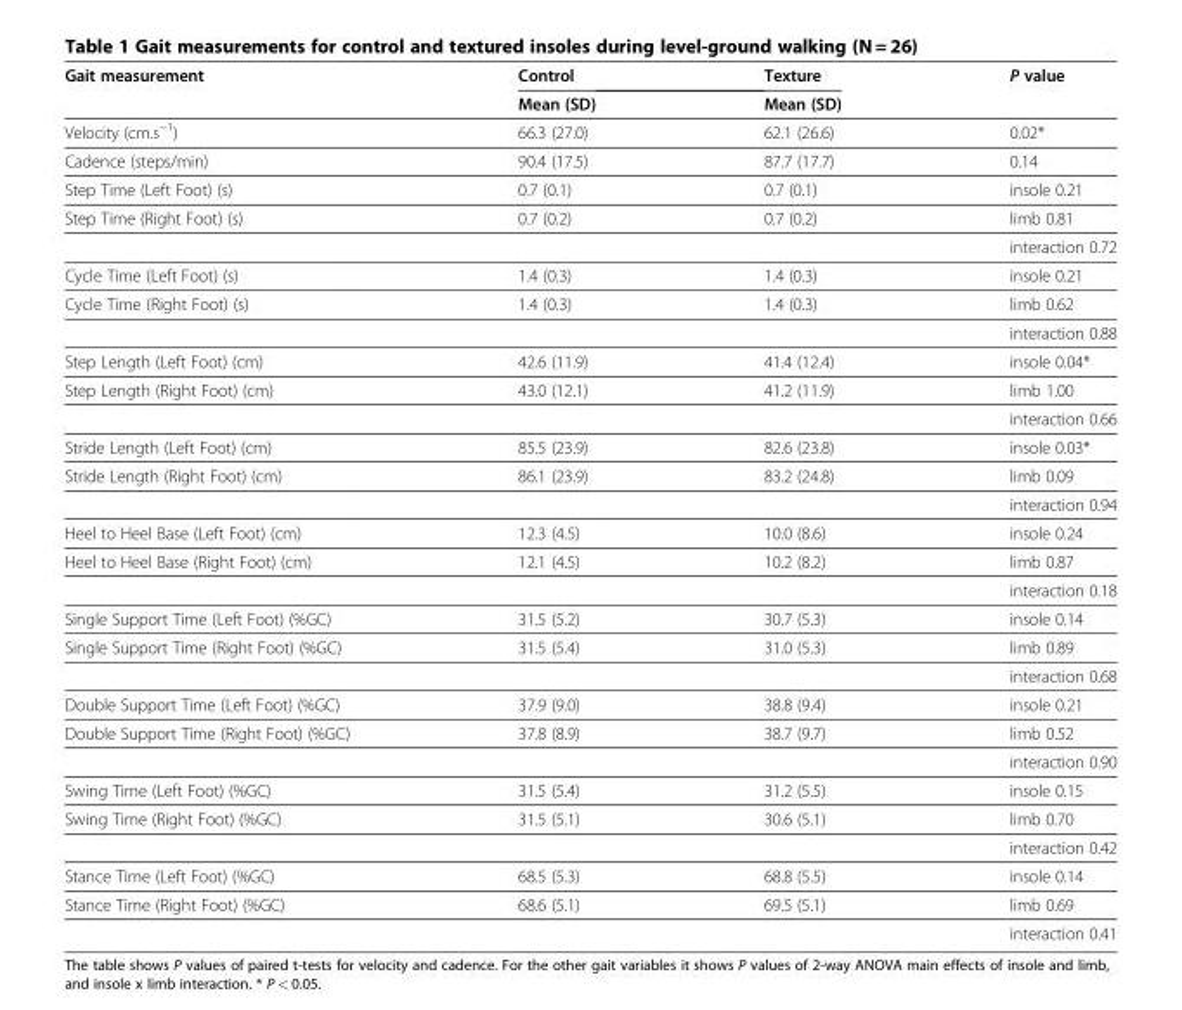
<table><thead><tr><td rowspan="2">Gait measurement</td><td rowspan="2">Control Mean (SD)</td><td rowspan="2">Texture Mean (SD)</td><td rowspan="2">P value</td></tr><tr></tr></thead><tbody><tr><td>Velocity (cm.s<sup>−1</sup>)</td><td>66.3 (27.0)</td><td>62.1 (26.6)</td><td>0.02*</td></tr><tr><td>Cadence (steps/min)</td><td>90.4 (17.5)</td><td>87.7 (17.7)</td><td>0.14</td></tr><tr><td>Step Time (Left Foot) (s)</td><td>0.7 (0.1)</td><td>0.7 (0.1)</td><td>insole 0.21</td></tr><tr><td rowspan="2">Step Time (Right Foot) (s)</td><td>0.7 (0.2)</td><td>0.7 (0.2)</td><td>limb 0.81</td></tr><tr><td></td><td></td><td>interaction 0.72</td></tr><tr><td>Cycle Time (Left Foot) (s)</td><td>1.4 (0.3)</td><td>1.4 (0.3)</td><td>insole 0.21</td></tr><tr><td rowspan="2">Cycle Time (Right Foot) (s)</td><td>1.4 (0.3)</td><td>1.4 (0.3)</td><td>limb 0.62</td></tr><tr><td></td><td></td><td>interaction 0.88</td></tr><tr><td>Step Length (Left Foot) (cm)</td><td>42.6 (11.9)</td><td>41.4 (12.4)</td><td>insole 0.04*</td></tr><tr><td rowspan="2">Step Length (Right Foot) (cm)</td><td>43.0 (12.1)</td><td>41.2 (11.9)</td><td>limb 1.00</td></tr><tr><td></td><td></td><td>interaction 0.66</td></tr><tr><td>Stride Length (Left Foot) (cm)</td><td>85.5 (23.9)</td><td>82.6 (23.8)</td><td>insole 0.03*</td></tr><tr><td rowspan="2">Stride Length (Right Foot) (cm)</td><td>86.1 (23.9)</td><td>83.2 (24.8)</td><td>limb 0.09</td></tr><tr><td></td><td></td><td>interaction 0.94</td></tr><tr><td>Heel to Heel Base (Left Foot) (cm)</td><td>12.3 (4.5)</td><td>10.0 (8.6)</td><td>insole 0.24</td></tr><tr><td rowspan="2">Heel to Heel Base (Right Foot) (cm)</td><td>12.1 (4.5)</td><td>10.2 (8.2)</td><td>limb 0.87</td></tr><tr><td></td><td></td><td>interaction 0.18</td></tr><tr><td>Single Support Time (Left Foot) (%GC)</td><td>31.5 (5.2)</td><td>30.7 (5.3)</td><td>insole 0.14</td></tr><tr><td rowspan="2">Single Support Time (Right Foot) (%GC)</td><td>31.5 (5.4)</td><td>31.0 (5.3)</td><td>limb 0.89</td></tr><tr><td></td><td></td><td>interaction 0.68</td></tr><tr><td>Double Support Time (Left Foot) (%GC)</td><td>37.9 (9.0)</td><td>38.8 (9.4)</td><td>insole 0.21</td></tr><tr><td rowspan="2">Double Support Time (Right Foot) (%GC)</td><td>37.8 (8.9)</td><td>38.7 (9.7)</td><td>limb 0.52</td></tr><tr><td></td><td></td><td>interaction 0.90</td></tr><tr><td>Swing Time (Left Foot) (%GC)</td><td>31.5 (5.4)</td><td>31.2 (5.5)</td><td>insole 0.15</td></tr><tr><td rowspan="2">Swing Time (Right Foot) (%GC)</td><td>31.5 (5.1)</td><td>30.6 (5.1)</td><td>limb 0.70</td></tr><tr><td></td><td></td><td>interaction 0.42</td></tr><tr><td>Stance Time (Left Foot) (%GC)</td><td>68.5 (5.3)</td><td>68.8 (5.5)</td><td>insole 0.14</td></tr><tr><td rowspan="2">Stance Time (Right Foot) (%GC)</td><td>68.6 (5.1)</td><td>69.5 (5.1)</td><td>limb 0.69</td></tr><tr><td></td><td></td><td>interaction 0.41</td></tr></tbody></table>